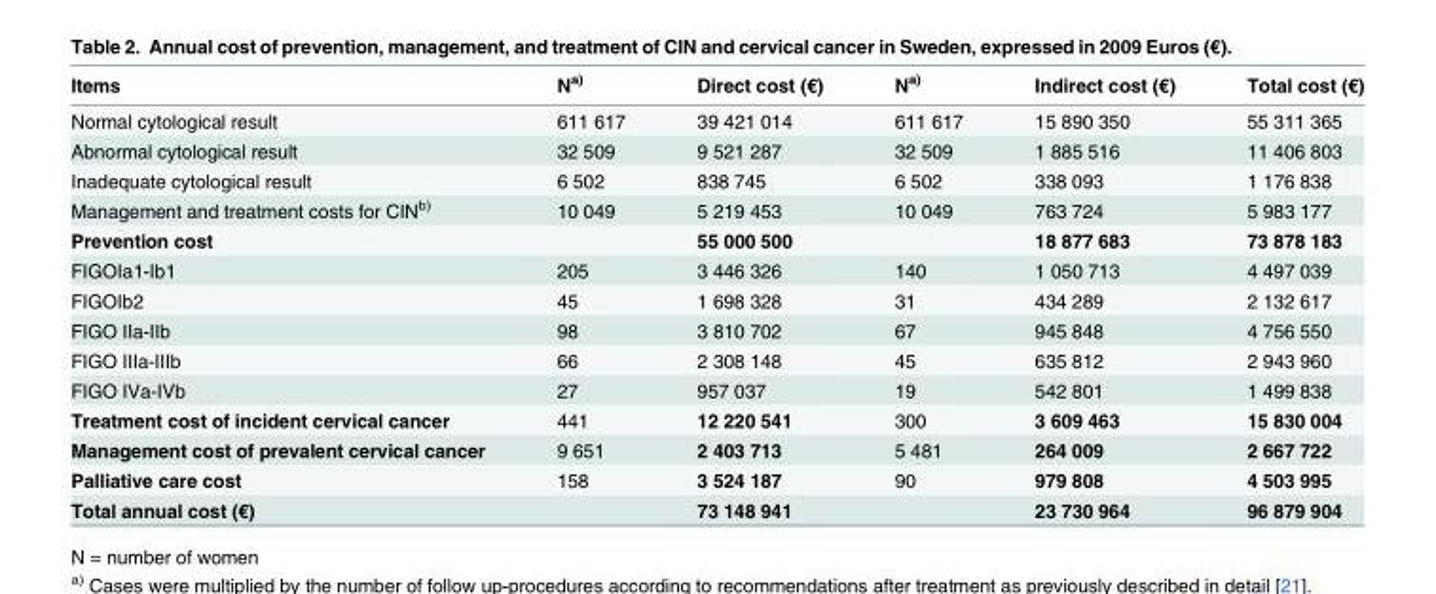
<table><thead><tr><td>Items</td><td>N<sup>a)</sup></td><td>Direct cost (€)</td><td>N<sup>a)</sup></td><td>Indirect cost (€)</td><td>Total cost (€)</td></tr></thead><tbody><tr><td>Normal cytological result</td><td>611 617</td><td>39 421 014</td><td>611 617</td><td>15 890 350</td><td>55 311 365</td></tr><tr><td>Abnormal cytological result</td><td>32 509</td><td>9 521 287</td><td>32 509</td><td>1 885 516</td><td>11 406 803</td></tr><tr><td>Inadequate cytological result</td><td>6 502</td><td>838 745</td><td>6 502</td><td>338 093</td><td>1 176 838</td></tr><tr><td>Management and treatment costs for CIN<sup>b)</sup></td><td>10 049</td><td>5 219 453</td><td>10 049</td><td>763 724</td><td>5 983 177</td></tr><tr><td>Prevention cost</td><td></td><td>55 000 500</td><td></td><td>18 877 683</td><td>73 878 183</td></tr><tr><td>FIGOIa1-Ib1</td><td>205</td><td>3 446 326</td><td>140</td><td>1 050 713</td><td>4 497 039</td></tr><tr><td>FIGOIb2</td><td>45</td><td>1 698 328</td><td>31</td><td>434 289</td><td>2 132 617</td></tr><tr><td>FIGO IIa-IIb</td><td>98</td><td>3 810 702</td><td>67</td><td>945 848</td><td>4 756 550</td></tr><tr><td>FIGO IIIa-IIIb</td><td>66</td><td>2 308 148</td><td>45</td><td>635 812</td><td>2 943 960</td></tr><tr><td>FIGO IVa-IVb</td><td>27</td><td>957 037</td><td>19</td><td>542 801</td><td>1 499 838</td></tr><tr><td>Treatment cost of incident cervical cancer</td><td>441</td><td>12 220 541</td><td>300</td><td>3 609 463</td><td>15 830 004</td></tr><tr><td>Management cost of prevalent cervical cancer</td><td>9 651</td><td>2 403 713</td><td>5 481</td><td>264 009</td><td>2 667 722</td></tr><tr><td>Palliative care cost</td><td>158</td><td>3 524 187</td><td>90</td><td>979 808</td><td>4 503 995</td></tr><tr><td>Total annual cost (€)</td><td></td><td>73 148 941</td><td></td><td>23 730 964</td><td>96 879 904</td></tr></tbody></table>